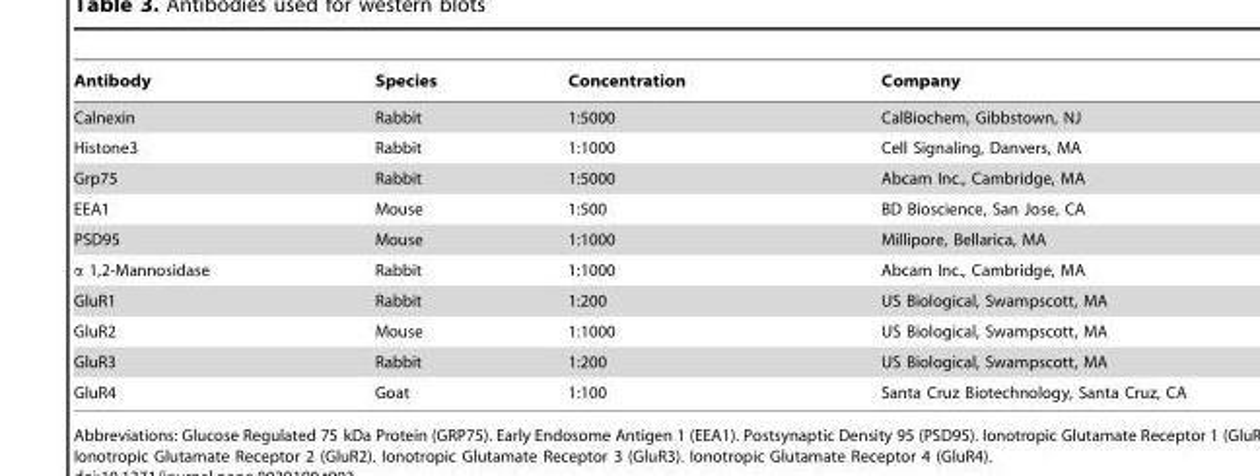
<table><thead><tr><td>Antibody</td><td>Species</td><td>Concentration</td><td>Company</td></tr></thead><tbody><tr><td>Calnexin</td><td>Rabbit</td><td>1:5000</td><td>CalBiochem, Gibbstown, NJ</td></tr><tr><td>Histone3</td><td>Rabbit</td><td>1:1000</td><td>Cell Signaling, Danvers, MA</td></tr><tr><td>Grp75</td><td>Rabbit</td><td>1:5000</td><td>Abcam Inc., Cambridge, MA</td></tr><tr><td>EEA1</td><td>Mouse</td><td>1:500</td><td>BD Bioscience, San Jose, CA</td></tr><tr><td>PSD95</td><td>Mouse</td><td>1:1000</td><td>Millipore, Bellarica, MA</td></tr><tr><td>α 1,2-Mannosidase</td><td>Rabbit</td><td>1:1000</td><td>Abcam Inc., Cambridge, MA</td></tr><tr><td>GluR1</td><td>Rabbit</td><td>1:200</td><td>US Biological, Swampscott, MA</td></tr><tr><td>GluR2</td><td>Mouse</td><td>1:1000</td><td>US Biological, Swampscott, MA</td></tr><tr><td>GluR3</td><td>Rabbit</td><td>1:200</td><td>US Biological, Swampscott, MA</td></tr><tr><td>GluR4</td><td>Goat</td><td>1:100</td><td>Santa Cruz Biotechnology, Santa Cruz, CA</td></tr></tbody></table>